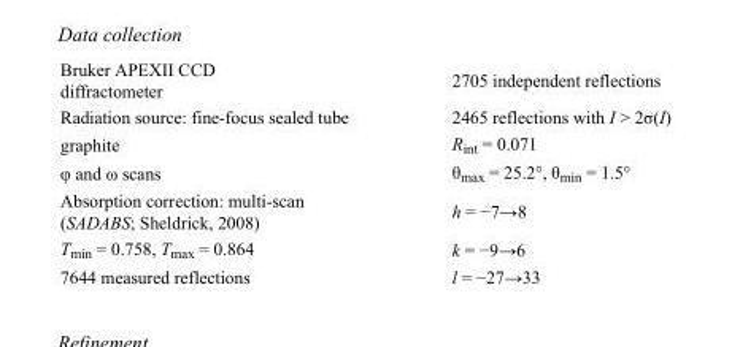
<table><tbody><tr><td>Bruker APEXII CCD diffractometer</td><td>2705 independent reflections</td></tr><tr><td>Radiation source: fine-focus sealed tube</td><td>2465 reflections with I &gt; 2σ(I)</td></tr><tr><td>graphite</td><td>R<sub>int</sub> = 0.071</td></tr><tr><td>φ and ω scans</td><td>θ<sub>max</sub> = 25.2°, θ<sub>min</sub> = 1.5°</td></tr><tr><td>Absorption correction: multi-scan (SADABS; Sheldrick, 2008)</td><td>h = −7→8</td></tr><tr><td>T<sub>min</sub> = 0.758, T<sub>max</sub> = 0.864</td><td>k = −9→6</td></tr><tr><td>7644 measured reflections</td><td>l = −27→33</td></tr></tbody></table>